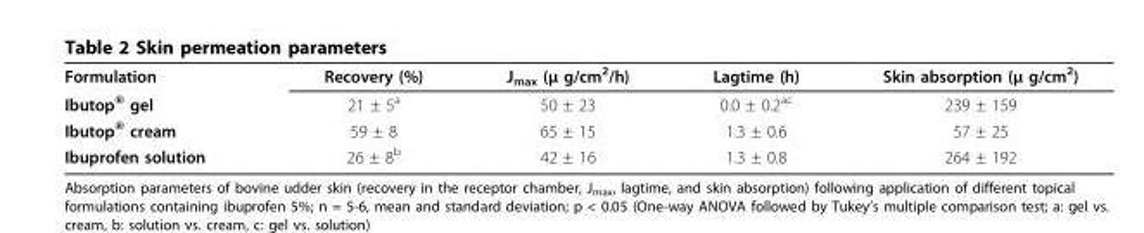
<table><tbody><tr><td>Formulation</td><td>Recovery (%)</td><td>J<sub>max</sub> (μ g/cm<sup>2</sup>/h)</td><td>Lagtime (h)</td><td>Skin absorption (μ g/cm<sup>2</sup>)</td></tr><tr><td>Ibutop<sup>®</sup> gel</td><td>21 ± 5<sup>a</sup></td><td>50 ± 23</td><td>0.0 ± 0.2<sup>ac</sup></td><td>239 ± 159</td></tr><tr><td>Ibutop<sup>®</sup> cream</td><td>59 ± 8</td><td>65 ± 15</td><td>1.3 ± 0.6</td><td>57 ± 25</td></tr><tr><td>Ibuprofen solution</td><td>26 ± 8<sup>b</sup></td><td>42 ± 16</td><td>1.3 ± 0.8</td><td>264 ± 192</td></tr></tbody></table>